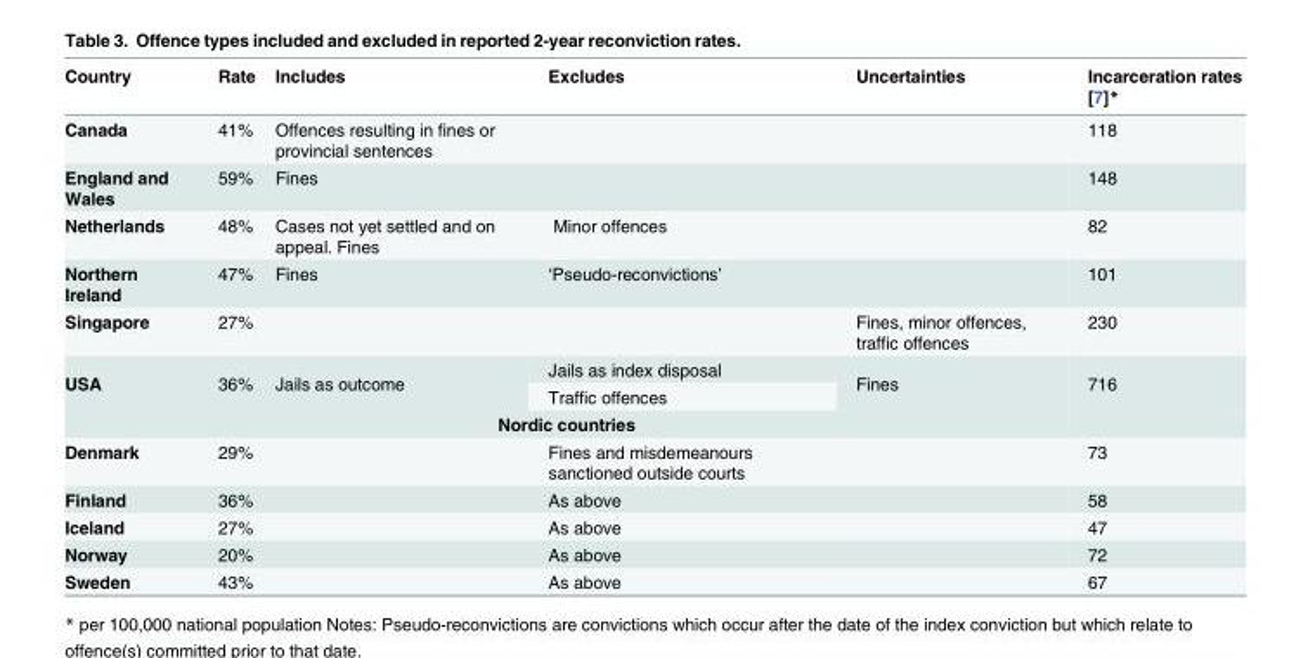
<table><thead><tr><td>Country</td><td>Rate</td><td>Includes</td><td>Excludes</td><td>Uncertainties</td><td>Incarceration rates [7]*</td></tr></thead><tbody><tr><td>Canada</td><td>41%</td><td>Offences resulting in fines or provincial sentences</td><td></td><td></td><td>118</td></tr><tr><td>England and Wales</td><td>59%</td><td>Fines</td><td></td><td></td><td>148</td></tr><tr><td>Netherlands</td><td>48%</td><td>Cases not yet settled and on appeal. Fines</td><td>Minor offences</td><td></td><td>82</td></tr><tr><td>Northern Ireland</td><td>47%</td><td>Fines</td><td>‘Pseudo-reconvictions’</td><td></td><td>101</td></tr><tr><td>Singapore</td><td>27%</td><td></td><td></td><td>Fines, minor offences, traffic offences</td><td>230</td></tr><tr><td rowspan="2">USA</td><td rowspan="2">36%</td><td rowspan="2">Jails as outcome</td><td>Jails as index disposal</td><td rowspan="2">Fines</td><td rowspan="2">716</td></tr><tr><td>Traffic offences</td></tr><tr><td colspan="6">Nordic countries</td></tr><tr><td>Denmark</td><td>29%</td><td></td><td>Fines and misdemeanours sanctioned outside courts</td><td></td><td>73</td></tr><tr><td>Finland</td><td>36%</td><td></td><td>As above</td><td></td><td>58</td></tr><tr><td>Iceland</td><td>27%</td><td></td><td>As above</td><td></td><td>47</td></tr><tr><td>Norway</td><td>20%</td><td></td><td>As above</td><td></td><td>72</td></tr><tr><td>Sweden</td><td>43%</td><td></td><td>As above</td><td></td><td>67</td></tr></tbody></table>